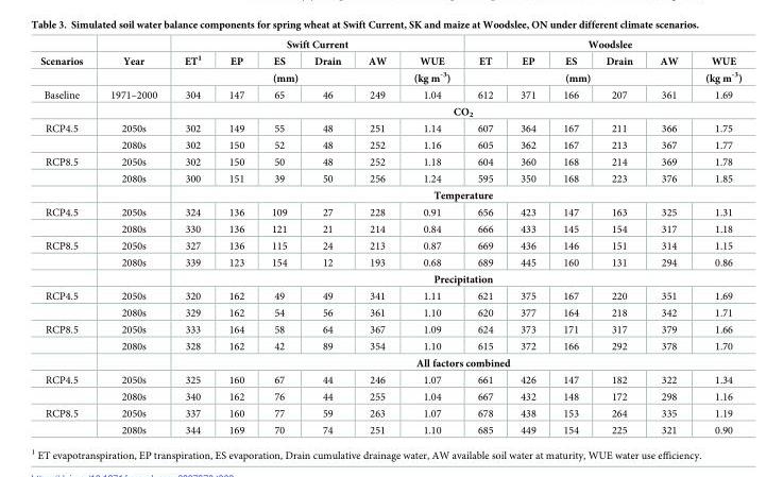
<table><thead><tr><td rowspan="3">Scenarios</td><td rowspan="3">Year</td><td colspan="6">Swift Current</td><td colspan="6">Woodslee</td></tr><tr><td>ET<sup>1</sup></td><td>EP</td><td>ES</td><td>Drain</td><td>AW</td><td rowspan="2">WUE (kg m<sup>-3</sup>)</td><td>ET</td><td>EP</td><td>ES</td><td>Drain</td><td>AW</td><td rowspan="2">WUE (kg m<sup>-3</sup>)</td></tr><tr><td colspan="5">(mm)</td><td colspan="5">(mm)</td></tr></thead><tbody><tr><td rowspan="2">Baseline</td><td>1971–2000</td><td>304</td><td>147</td><td>65</td><td>46</td><td>249</td><td>1.04</td><td>612</td><td>371</td><td>166</td><td>207</td><td>361</td><td>1.69</td></tr><tr><td></td><td colspan="12">CO<sub>2</sub></td></tr><tr><td rowspan="2">RCP4.5</td><td>2050s</td><td>302</td><td>149</td><td>55</td><td>48</td><td>251</td><td>1.14</td><td>607</td><td>364</td><td>167</td><td>211</td><td>366</td><td>1.75</td></tr><tr><td>2080s</td><td>302</td><td>150</td><td>52</td><td>48</td><td>252</td><td>1.16</td><td>605</td><td>362</td><td>167</td><td>213</td><td>367</td><td>1.77</td></tr><tr><td rowspan="3">RCP8.5</td><td>2050s</td><td>302</td><td>150</td><td>50</td><td>48</td><td>252</td><td>1.18</td><td>604</td><td>360</td><td>168</td><td>214</td><td>369</td><td>1.78</td></tr><tr><td>2080s</td><td>300</td><td>151</td><td>39</td><td>50</td><td>256</td><td>1.24</td><td>595</td><td>350</td><td>168</td><td>223</td><td>376</td><td>1.85</td></tr><tr><td></td><td colspan="12">Temperature</td></tr><tr><td rowspan="2">RCP4.5</td><td>2050s</td><td>324</td><td>136</td><td>109</td><td>27</td><td>228</td><td>0.91</td><td>656</td><td>423</td><td>147</td><td>163</td><td>325</td><td>1.31</td></tr><tr><td>2080s</td><td>330</td><td>136</td><td>121</td><td>21</td><td>214</td><td>0.84</td><td>666</td><td>433</td><td>145</td><td>154</td><td>317</td><td>1.18</td></tr><tr><td rowspan="3">RCP8.5</td><td>2050s</td><td>327</td><td>136</td><td>115</td><td>24</td><td>213</td><td>0.87</td><td>669</td><td>436</td><td>146</td><td>151</td><td>314</td><td>1.15</td></tr><tr><td>2080s</td><td>339</td><td>123</td><td>154</td><td>12</td><td>193</td><td>0.68</td><td>689</td><td>445</td><td>160</td><td>131</td><td>294</td><td>0.86</td></tr><tr><td></td><td colspan="12">Precipitation</td></tr><tr><td rowspan="2">RCP4.5</td><td>2050s</td><td>320</td><td>162</td><td>49</td><td>49</td><td>341</td><td>1.11</td><td>621</td><td>375</td><td>167</td><td>220</td><td>351</td><td>1.69</td></tr><tr><td>2080s</td><td>329</td><td>162</td><td>54</td><td>56</td><td>361</td><td>1.10</td><td>620</td><td>377</td><td>164</td><td>218</td><td>342</td><td>1.71</td></tr><tr><td rowspan="3">RCP8.5</td><td>2050s</td><td>333</td><td>164</td><td>58</td><td>64</td><td>367</td><td>1.09</td><td>624</td><td>373</td><td>171</td><td>317</td><td>379</td><td>1.66</td></tr><tr><td>2080s</td><td>328</td><td>162</td><td>42</td><td>89</td><td>354</td><td>1.10</td><td>615</td><td>372</td><td>166</td><td>292</td><td>378</td><td>1.70</td></tr><tr><td></td><td colspan="12">All factors combined</td></tr><tr><td rowspan="2">RCP4.5</td><td>2050s</td><td>325</td><td>160</td><td>67</td><td>44</td><td>246</td><td>1.07</td><td>661</td><td>426</td><td>147</td><td>182</td><td>322</td><td>1.34</td></tr><tr><td>2080s</td><td>340</td><td>162</td><td>76</td><td>44</td><td>255</td><td>1.04</td><td>667</td><td>432</td><td>148</td><td>172</td><td>298</td><td>1.16</td></tr><tr><td rowspan="2">RCP8.5</td><td>2050s</td><td>337</td><td>160</td><td>77</td><td>59</td><td>263</td><td>1.07</td><td>678</td><td>438</td><td>153</td><td>264</td><td>335</td><td>1.19</td></tr><tr><td>2080s</td><td>344</td><td>169</td><td>70</td><td>74</td><td>251</td><td>1.10</td><td>685</td><td>449</td><td>154</td><td>225</td><td>321</td><td>0.90</td></tr></tbody></table>